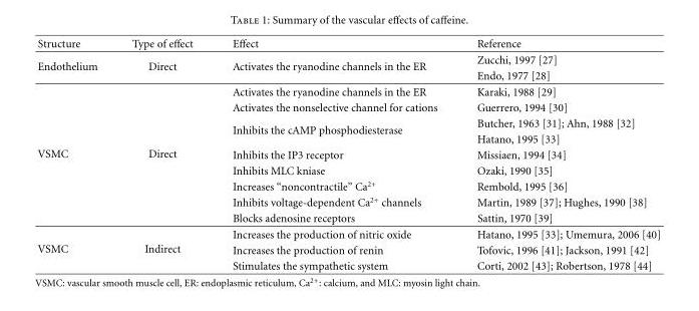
<table><thead><tr><td>Structure</td><td>Type of effect</td><td>Effect</td><td>Reference</td></tr></thead><tbody><tr><td rowspan="2">Endothelium</td><td rowspan="2">Direct</td><td rowspan="2">Activates the ryanodine channels in the ER</td><td>Zucchi, 1997 [27]</td></tr><tr><td>Endo, 1977 [28]</td></tr><tr><td rowspan="9">VSMC</td><td rowspan="9">Direct</td><td>Activates the ryanodine channels in the ER</td><td>Karaki, 1988 [29]</td></tr><tr><td>Activates the nonselective channel for cations</td><td>Guerrero, 1994 [30]</td></tr><tr><td rowspan="2">Inhibits the cAMP phosphodiesterase</td><td>Butcher, 1963 [31]; Ahn, 1988 [32]</td></tr><tr><td>Hatano, 1995 [33]</td></tr><tr><td>Inhibits the IP3 receptor</td><td>Missiaen, 1994 [34]</td></tr><tr><td>Inhibits MLC kniase</td><td>Ozaki, 1990 [35]</td></tr><tr><td>Increases “noncontractile” Ca<sup>2+</sup></td><td>Rembold, 1995 [36]</td></tr><tr><td>Inhibits voltage-dependent Ca<sup>2+</sup> channels</td><td>Martin, 1989 [37]; Hughes, 1990 [38]</td></tr><tr><td>Blocks adenosine receptors</td><td>Sattin, 1970 [39]</td></tr><tr><td rowspan="3">VSMC</td><td rowspan="3">Indirect</td><td>Increases the production of nitric oxide</td><td>Hatano, 1995 [33]; Umemura, 2006 [40]</td></tr><tr><td>Increases the production of renin</td><td>Tofovic, 1996 [41]; Jackson, 1991 [42]</td></tr><tr><td>Stimulates the sympathetic system</td><td>Corti, 2002 [43]; Robertson, 1978 [44]</td></tr></tbody></table>